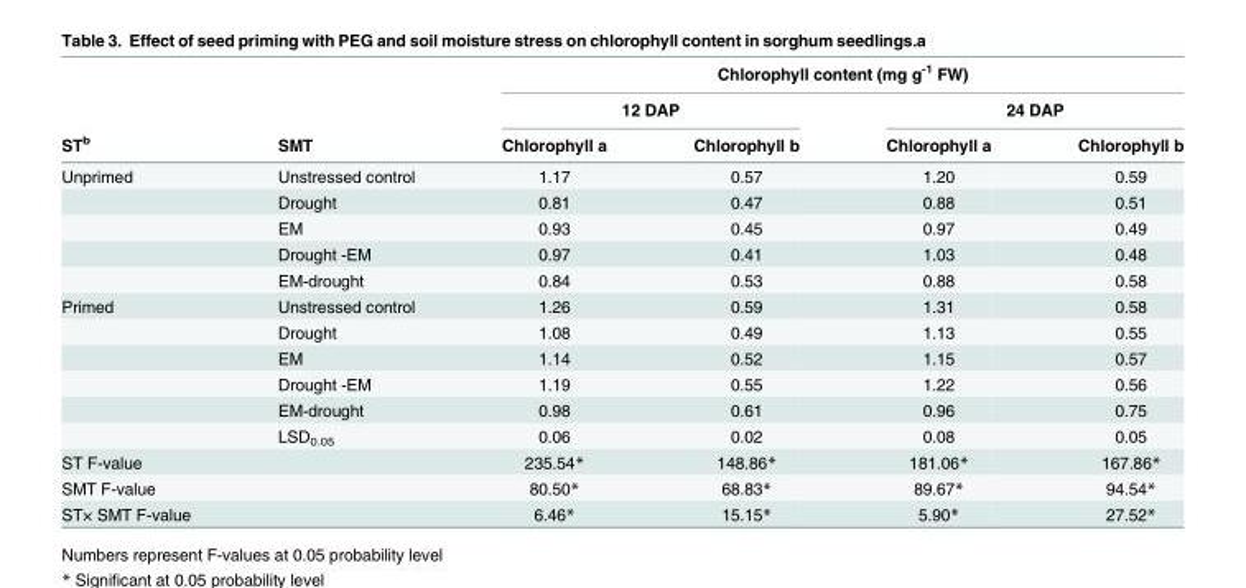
<table><thead><tr><td rowspan="3">ST<sup>b</sup></td><td rowspan="3">SMT</td><td colspan="4">Chlorophyll content (mg g<sup>-1</sup> FW)</td></tr><tr><td colspan="2">12 DAP</td><td colspan="2">24 DAP</td></tr><tr><td>Chlorophyll a</td><td>Chlorophyll b</td><td>Chlorophyll a</td><td>Chlorophyll b</td></tr></thead><tbody><tr><td rowspan="5">Unprimed</td><td>Unstressed control</td><td>1.17</td><td>0.57</td><td>1.20</td><td>0.59</td></tr><tr><td>Drought</td><td>0.81</td><td>0.47</td><td>0.88</td><td>0.51</td></tr><tr><td>EM</td><td>0.93</td><td>0.45</td><td>0.97</td><td>0.49</td></tr><tr><td>Drought -EM</td><td>0.97</td><td>0.41</td><td>1.03</td><td>0.48</td></tr><tr><td>EM-drought</td><td>0.84</td><td>0.53</td><td>0.88</td><td>0.58</td></tr><tr><td rowspan="6">Primed</td><td>Unstressed control</td><td>1.26</td><td>0.59</td><td>1.31</td><td>0.58</td></tr><tr><td>Drought</td><td>1.08</td><td>0.49</td><td>1.13</td><td>0.55</td></tr><tr><td>EM</td><td>1.14</td><td>0.52</td><td>1.15</td><td>0.57</td></tr><tr><td>Drought -EM</td><td>1.19</td><td>0.55</td><td>1.22</td><td>0.56</td></tr><tr><td>EM-drought</td><td>0.98</td><td>0.61</td><td>0.96</td><td>0.75</td></tr><tr><td>LSD<sub>0.05</sub></td><td>0.06</td><td>0.02</td><td>0.08</td><td>0.05</td></tr><tr><td>ST F-value</td><td></td><td>235.54*</td><td>148.86*</td><td>181.06*</td><td>167.86*</td></tr><tr><td>SMT F-value</td><td></td><td>80.50*</td><td>68.83*</td><td>89.67*</td><td>94.54*</td></tr><tr><td>ST× SMT F-value</td><td></td><td>6.46*</td><td>15.15*</td><td>5.90*</td><td>27.52*</td></tr></tbody></table>